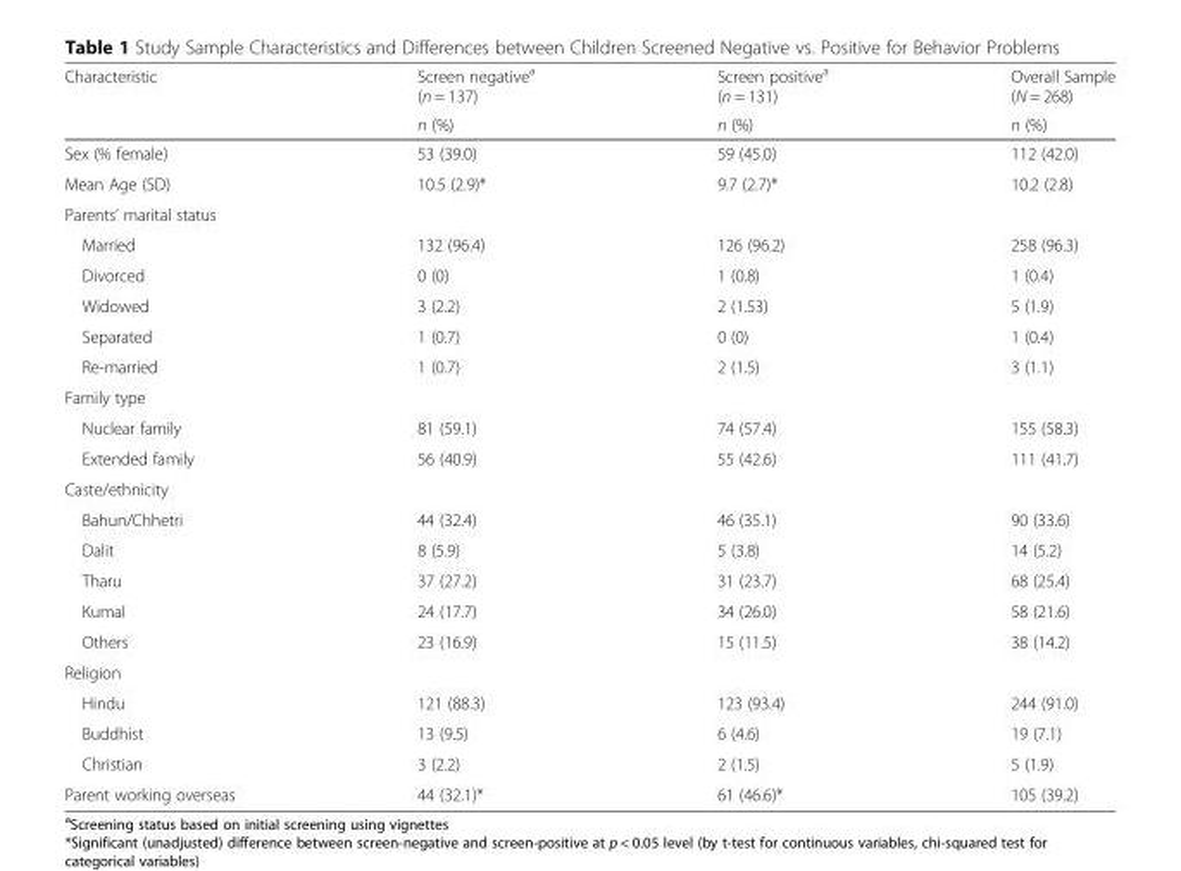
<table><thead><tr><td rowspan="2">Characteristic</td><td rowspan="2">Screen negative<sup>a</sup> (n = 137) n (%)</td><td rowspan="2">Screen positive<sup>a</sup> (n = 131) n (%)</td><td rowspan="2">Overall Sample (N = 268) n (%)</td></tr><tr></tr></thead><tbody><tr><td>Sex (% female)</td><td>53 (39.0)</td><td>59 (45.0)</td><td>112 (42.0)</td></tr><tr><td>Mean Age (SD)</td><td>10.5 (2.9)*</td><td>9.7 (2.7)*</td><td>10.2 (2.8)</td></tr><tr><td colspan="4">Parents’ marital status</td></tr><tr><td>Married</td><td>132 (96.4)</td><td>126 (96.2)</td><td>258 (96.3)</td></tr><tr><td>Divorced</td><td>0 (0)</td><td>1 (0.8)</td><td>1 (0.4)</td></tr><tr><td>Widowed</td><td>3 (2.2)</td><td>2 (1.53)</td><td>5 (1.9)</td></tr><tr><td>Separated</td><td>1 (0.7)</td><td>0 (0)</td><td>1 (0.4)</td></tr><tr><td>Re-married</td><td>1 (0.7)</td><td>2 (1.5)</td><td>3 (1.1)</td></tr><tr><td colspan="4">Family type</td></tr><tr><td>Nuclear family</td><td>81 (59.1)</td><td>74 (57.4)</td><td>155 (58.3)</td></tr><tr><td>Extended family</td><td>56 (40.9)</td><td>55 (42.6)</td><td>111 (41.7)</td></tr><tr><td colspan="4">Caste/ethnicity</td></tr><tr><td>Bahun/Chhetri</td><td>44 (32.4)</td><td>46 (35.1)</td><td>90 (33.6)</td></tr><tr><td>Dalit</td><td>8 (5.9)</td><td>5 (3.8)</td><td>14 (5.2)</td></tr><tr><td>Tharu</td><td>37 (27.2)</td><td>31 (23.7)</td><td>68 (25.4)</td></tr><tr><td>Kumal</td><td>24 (17.7)</td><td>34 (26.0)</td><td>58 (21.6)</td></tr><tr><td>Others</td><td>23 (16.9)</td><td>15 (11.5)</td><td>38 (14.2)</td></tr><tr><td colspan="4">Religion</td></tr><tr><td>Hindu</td><td>121 (88.3)</td><td>123 (93.4)</td><td>244 (91.0)</td></tr><tr><td>Buddhist</td><td>13 (9.5)</td><td>6 (4.6)</td><td>19 (7.1)</td></tr><tr><td>Christian</td><td>3 (2.2)</td><td>2 (1.5)</td><td>5 (1.9)</td></tr><tr><td>Parent working overseas</td><td>44 (32.1)*</td><td>61 (46.6)*</td><td>105 (39.2)</td></tr></tbody></table>